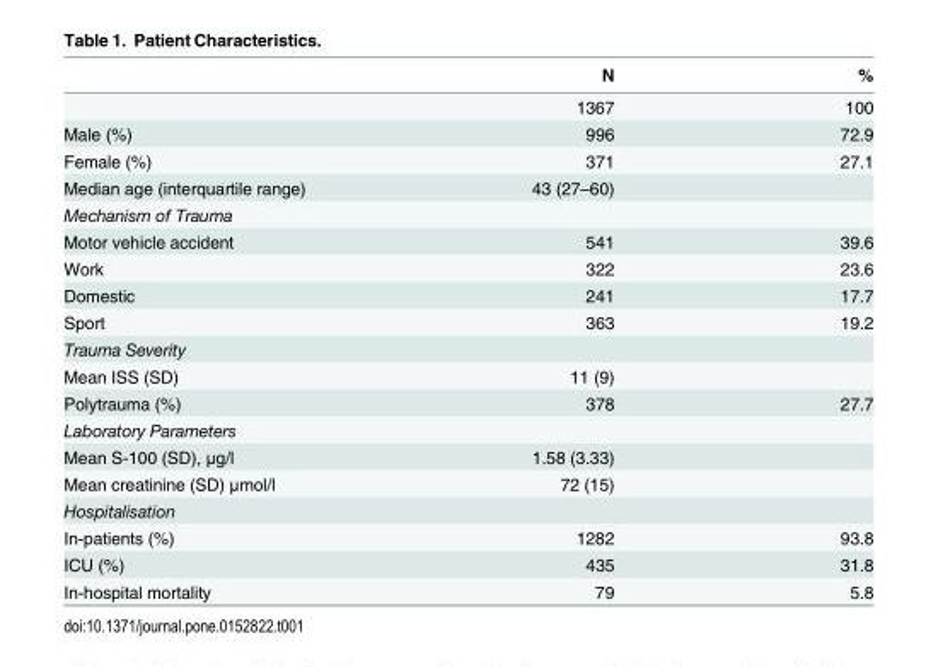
<table><thead><tr><td></td><td>N</td><td>%</td></tr></thead><tbody><tr><td></td><td>1367</td><td>100</td></tr><tr><td>Male (%)</td><td>996</td><td>72.9</td></tr><tr><td>Female (%)</td><td>371</td><td>27.1</td></tr><tr><td>Median age (interquartile range)</td><td>43 (27–60)</td><td></td></tr><tr><td colspan="3">Mechanism of Trauma</td></tr><tr><td>Motor vehicle accident</td><td>541</td><td>39.6</td></tr><tr><td>Work</td><td>322</td><td>23.6</td></tr><tr><td>Domestic</td><td>241</td><td>17.7</td></tr><tr><td>Sport</td><td>363</td><td>19.2</td></tr><tr><td colspan="3">Trauma Severity</td></tr><tr><td>Mean ISS (SD)</td><td>11 (9)</td><td></td></tr><tr><td>Polytrauma (%)</td><td>378</td><td>27.7</td></tr><tr><td colspan="3">Laboratory Parameters</td></tr><tr><td>Mean S-100 (SD), μg/l</td><td>1.58 (3.33)</td><td></td></tr><tr><td>Mean creatinine (SD) μmol/l</td><td>72 (15)</td><td></td></tr><tr><td colspan="3">Hospitalisation</td></tr><tr><td>In-patients (%)</td><td>1282</td><td>93.8</td></tr><tr><td>ICU (%)</td><td>435</td><td>31.8</td></tr><tr><td>In-hospital mortality</td><td>79</td><td>5.8</td></tr></tbody></table>